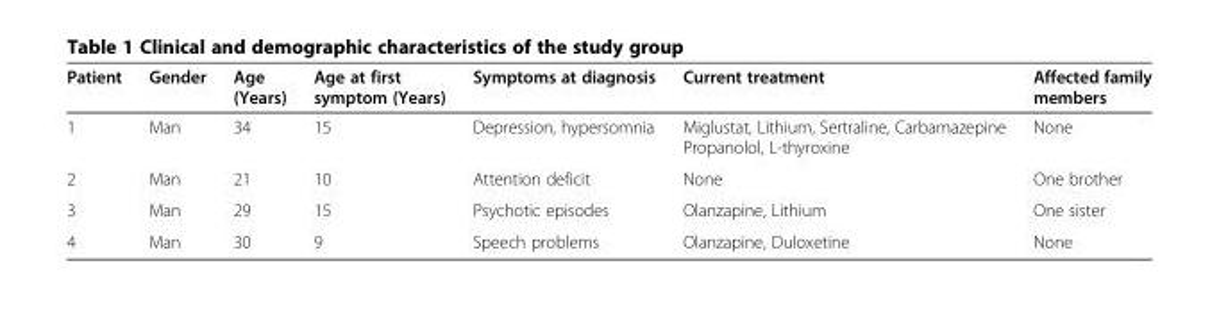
<table><thead><tr><td>Patient</td><td>Gender</td><td>Age (Years)</td><td>Age at first symptom (Years)</td><td>Symptoms at diagnosis</td><td>Current treatment</td><td>Affected family members</td></tr></thead><tbody><tr><td>1</td><td>Man</td><td>34</td><td>15</td><td>Depression, hypersomnia</td><td>Miglustat, Lithium, Sertraline, Carbamazepine Propanolol, L-thyroxine</td><td>None</td></tr><tr><td>2</td><td>Man</td><td>21</td><td>10</td><td>Attention deficit</td><td>None</td><td>One brother</td></tr><tr><td>3</td><td>Man</td><td>29</td><td>15</td><td>Psychotic episodes</td><td>Olanzapine, Lithium</td><td>One sister</td></tr><tr><td>4</td><td>Man</td><td>30</td><td>9</td><td>Speech problems</td><td>Olanzapine, Duloxetine</td><td>None</td></tr></tbody></table>